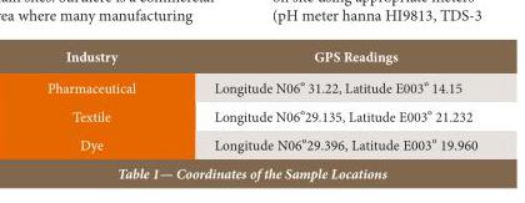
<table><thead><tr><td>Industry</td><td>GPS Readings</td></tr></thead><tbody><tr><td>Pharmaceutical</td><td>Longitude N06º 31.22, Latitude E003º 14.15</td></tr><tr><td>Textile</td><td>Longitude N06º29.135, Latitude E003º 21.232</td></tr><tr><td>Dye</td><td>Longitude N06º29.396, Latitude E003º 19.960</td></tr></tbody></table>